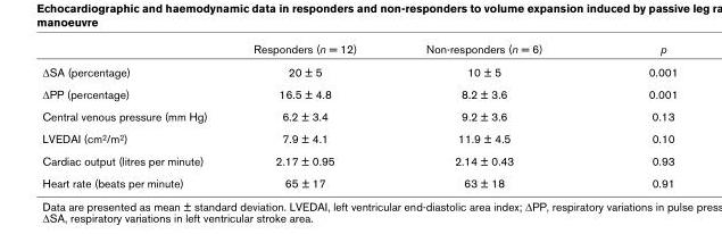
<table><thead><tr><td></td><td>Responders (n = 12)</td><td>Non-responders (n = 6)</td><td>p</td></tr></thead><tbody><tr><td>ΔSA (percentage)</td><td>20 ± 5</td><td>10 ± 5</td><td>0.001</td></tr><tr><td>ΔPP (percentage)</td><td>16.5 ± 4.8</td><td>8.2 ± 3.6</td><td>0.001</td></tr><tr><td>Central venous pressure (mm Hg)</td><td>6.2 ± 3.4</td><td>9.2 ± 3.6</td><td>0.13</td></tr><tr><td>LVEDAI (cm2/m2)</td><td>7.9 ± 4.1</td><td>11.9 ± 4.5</td><td>0.10</td></tr><tr><td>Cardiac output (litres per minute)</td><td>2.17 ± 0.95</td><td>2.14 ± 0.43</td><td>0.93</td></tr><tr><td>Heart rate (beats per minute)</td><td>65 ± 17</td><td>63 ± 18</td><td>0.91</td></tr></tbody></table>